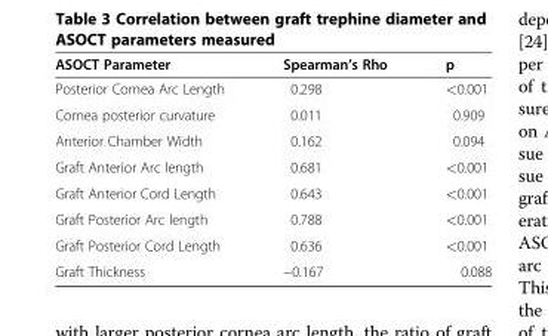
<table><thead><tr><td>ASOCT Parameter</td><td>Spearman’s Rho</td><td>p</td></tr></thead><tbody><tr><td>Posterior Cornea Arc Length</td><td>0.298</td><td>&lt;0.001</td></tr><tr><td>Cornea posterior curvature</td><td>0.011</td><td>0.909</td></tr><tr><td>Anterior Chamber Width</td><td>0.162</td><td>0.094</td></tr><tr><td>Graft Anterior Arc length</td><td>0.681</td><td>&lt;0.001</td></tr><tr><td>Graft Anterior Cord Length</td><td>0.643</td><td>&lt;0.001</td></tr><tr><td>Graft Posterior Arc length</td><td>0.788</td><td>&lt;0.001</td></tr><tr><td>Graft Posterior Cord Length</td><td>0.636</td><td>&lt;0.001</td></tr><tr><td>Graft Thickness</td><td>−0.167</td><td>0.088</td></tr></tbody></table>